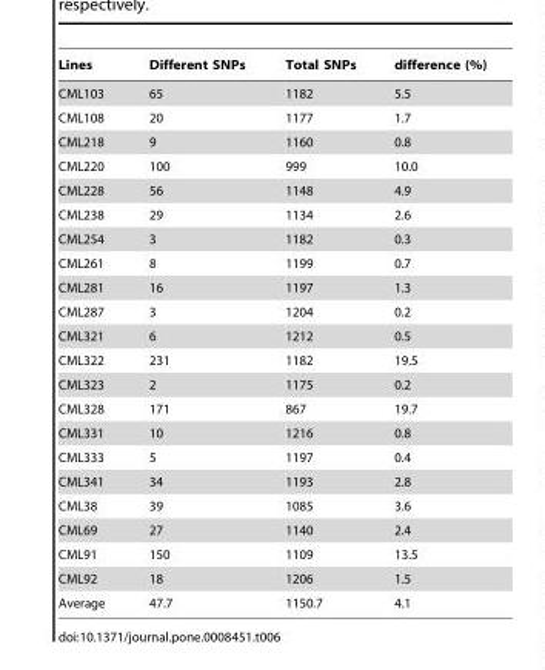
<table><thead><tr><td>Lines</td><td>Different SNPs</td><td>Total SNPs</td><td>difference (%)</td></tr></thead><tbody><tr><td>CML103</td><td>65</td><td>1182</td><td>5.5</td></tr><tr><td>CML108</td><td>20</td><td>1177</td><td>1.7</td></tr><tr><td>CML218</td><td>9</td><td>1160</td><td>0.8</td></tr><tr><td>CML220</td><td>100</td><td>999</td><td>10.0</td></tr><tr><td>CML228</td><td>56</td><td>1148</td><td>4.9</td></tr><tr><td>CML238</td><td>29</td><td>1134</td><td>2.6</td></tr><tr><td>CML254</td><td>3</td><td>1182</td><td>0.3</td></tr><tr><td>CML261</td><td>8</td><td>1199</td><td>0.7</td></tr><tr><td>CML281</td><td>16</td><td>1197</td><td>1.3</td></tr><tr><td>CML287</td><td>3</td><td>1204</td><td>0.2</td></tr><tr><td>CML321</td><td>6</td><td>1212</td><td>0.5</td></tr><tr><td>CML322</td><td>231</td><td>1182</td><td>19.5</td></tr><tr><td>CML323</td><td>2</td><td>1175</td><td>0.2</td></tr><tr><td>CML328</td><td>171</td><td>867</td><td>19.7</td></tr><tr><td>CML331</td><td>10</td><td>1216</td><td>0.8</td></tr><tr><td>CML333</td><td>5</td><td>1197</td><td>0.4</td></tr><tr><td>CML341</td><td>34</td><td>1193</td><td>2.8</td></tr><tr><td>CML38</td><td>39</td><td>1085</td><td>3.6</td></tr><tr><td>CML69</td><td>27</td><td>1140</td><td>2.4</td></tr><tr><td>CML91</td><td>150</td><td>1109</td><td>13.5</td></tr><tr><td>CML92</td><td>18</td><td>1206</td><td>1.5</td></tr><tr><td>Average</td><td>47.7</td><td>1150.7</td><td>4.1</td></tr></tbody></table>